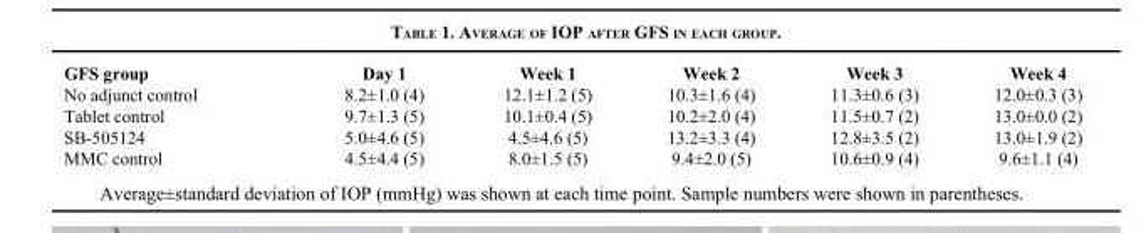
<table><thead><tr><td>GFS group</td><td>Day 1</td><td>Week 1</td><td>Week 2</td><td>Week 3</td><td>Week 4</td></tr></thead><tbody><tr><td>No adjunct control</td><td>8.2±1.0 (4)</td><td>12.1±1.2 (5)</td><td>10.3±1.6 (4)</td><td>11.3±0.6 (3)</td><td>12.0±0.3 (3)</td></tr><tr><td>Tablet control</td><td>9.7±1.3 (5)</td><td>10.1±0.4 (5)</td><td>10.2±2.0 (4)</td><td>11.5±0.7 (2)</td><td>13.0±0.0 (2)</td></tr><tr><td>SB-505124</td><td>5.0±4.6 (5)</td><td>4.5±4.6 (5)</td><td>13.2±3.3 (4)</td><td>12.8±3.5 (2)</td><td>13.0±1.9 (2)</td></tr><tr><td>MMC control</td><td>4.5±4.4 (5)</td><td>8.0±1.5 (5)</td><td>9.4±2.0 (5)</td><td>10.6±0.9 (4)</td><td>9.6±1.1 (4)</td></tr></tbody></table>